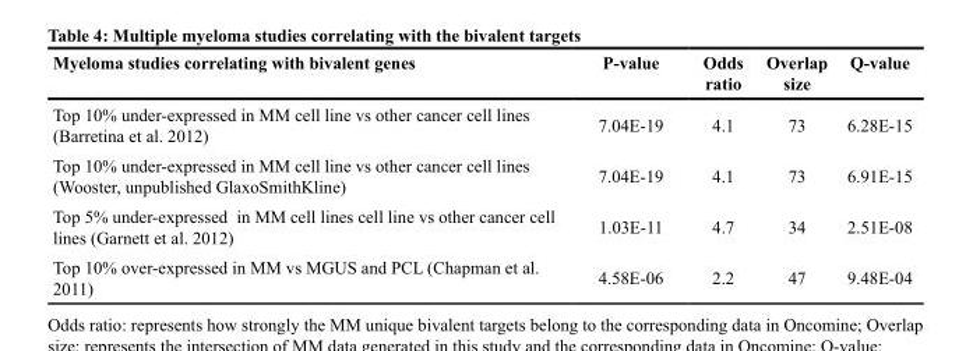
<table><thead><tr><td>Myeloma studies correlating with bivalent genes</td><td>P-value</td><td>Odds ratio</td><td>Overlap size</td><td>Q-value</td></tr></thead><tbody><tr><td>Top 10% under-expressed in MM cell line vs other cancer cell lines (Barretina et al. 2012)</td><td>7.04E-19</td><td>4.1</td><td>73</td><td>6.28E-15</td></tr><tr><td>Top 10% under-expressed in MM cell line vs other cancer cell lines (Wooster, unpublished GlaxoSmithKline)</td><td>7.04E-19</td><td>4.1</td><td>73</td><td>6.91E-15</td></tr><tr><td>Top 5% under-expressed in MM cell lines cell line vs other cancer cell lines (Garnett et al. 2012)</td><td>1.03E-11</td><td>4.7</td><td>34</td><td>2.51E-08</td></tr><tr><td>Top 10% over-expressed in MM vs MGUS and PCL (Chapman et al. 2011)</td><td>4.58E-06</td><td>2.2</td><td>47</td><td>9.48E-04</td></tr></tbody></table>